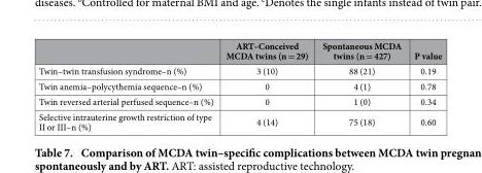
<table><thead><tr><td></td><td>ART–Conceived MCDA twins (n = 29)</td><td>Spontaneous MCDA twins (n = 427)</td><td>P value</td></tr></thead><tbody><tr><td>Twin–twin transfusion syndrome–n (%)</td><td>3 (10)</td><td>88 (21)</td><td>0.19</td></tr><tr><td>Twin anemia–polycythemia sequence–n (%)</td><td>0</td><td>4 (1)</td><td>0.78</td></tr><tr><td>Twin reversed arterial perfused sequence–n (%)</td><td>0</td><td>1 (0)</td><td>0.34</td></tr><tr><td>Selective intrauterine growth restriction of type II or III–n (%)</td><td>4 (14)</td><td>75 (18)</td><td>0.60</td></tr></tbody></table>